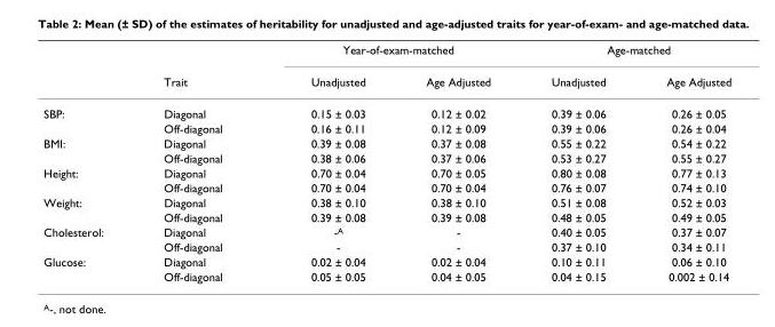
<table><thead><tr><td rowspan="2"></td><td rowspan="2">Trait</td><td colspan="2">Year-of-exam-matched</td><td colspan="2">Age-matched</td></tr><tr><td>Unadjusted</td><td>Age Adjusted</td><td>Unadjusted</td><td>Age Adjusted</td></tr></thead><tbody><tr><td rowspan="2">SBP:</td><td>Diagonal</td><td>0.15 ± 0.03</td><td>0.12 ± 0.02</td><td>0.39 ± 0.06</td><td>0.26 ± 0.05</td></tr><tr><td>Off-diagonal</td><td>0.16 ± 0.11</td><td>0.12 ± 0.09</td><td>0.39 ± 0.06</td><td>0.26 ± 0.04</td></tr><tr><td rowspan="2">BMI:</td><td>Diagonal</td><td>0.39 ± 0.08</td><td>0.37 ± 0.08</td><td>0.55 ± 0.22</td><td>0.54 ± 0.22</td></tr><tr><td>Off-diagonal</td><td>0.38 ± 0.06</td><td>0.37 ± 0.06</td><td>0.53 ± 0.27</td><td>0.55 ± 0.27</td></tr><tr><td rowspan="2">Height:</td><td>Diagonal</td><td>0.70 ± 0.04</td><td>0.70 ± 0.05</td><td>0.80 ± 0.08</td><td>0.77 ± 0.13</td></tr><tr><td>Off-diagonal</td><td>0.70 ± 0.04</td><td>0.70 ± 0.04</td><td>0.76 ± 0.07</td><td>0.74 ± 0.10</td></tr><tr><td rowspan="2">Weight:</td><td>Diagonal</td><td>0.38 ± 0.10</td><td>0.38 ± 0.10</td><td>0.51 ± 0.08</td><td>0.52 ± 0.03</td></tr><tr><td>Off-diagonal</td><td>0.39 ± 0.08</td><td>0.39 ± 0.08</td><td>0.48 ± 0.05</td><td>0.49 ± 0.05</td></tr><tr><td rowspan="2">Cholesterol:</td><td>Diagonal</td><td>-A</td><td>-</td><td>0.40 ± 0.05</td><td>0.37 ± 0.07</td></tr><tr><td>Off-diagonal</td><td>-</td><td>-</td><td>0.37 ± 0.10</td><td>0.34 ± 0.11</td></tr><tr><td rowspan="2">Glucose:</td><td>Diagonal</td><td>0.02 ± 0.04</td><td>0.02 ± 0.04</td><td>0.10 ± 0.11</td><td>0.06 ± 0.10</td></tr><tr><td>Off-diagonal</td><td>0.05 ± 0.05</td><td>0.04 ± 0.05</td><td>0.04 ± 0.15</td><td>0.002 ± 0.14</td></tr></tbody></table>